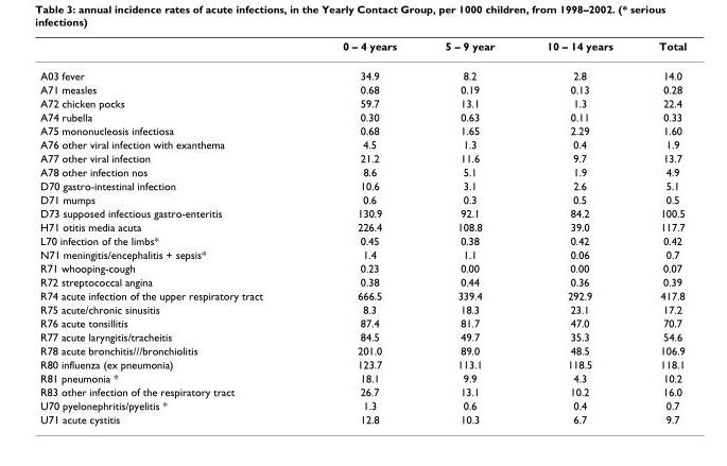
<table><thead><tr><td></td><td>0 – 4 years</td><td>5 – 9 year</td><td>10 – 14 years</td><td>Total</td></tr></thead><tbody><tr><td>A03 fever</td><td>34.9</td><td>8.2</td><td>2.8</td><td>14.0</td></tr><tr><td>A71 measles</td><td>0.68</td><td>0.19</td><td>0.13</td><td>0.28</td></tr><tr><td>A72 chicken pocks</td><td>59.7</td><td>13.1</td><td>1.3</td><td>22.4</td></tr><tr><td>A74 rubella</td><td>0.30</td><td>0.63</td><td>0.11</td><td>0.33</td></tr><tr><td>A75 mononucleosis infectiosa</td><td>0.68</td><td>1.65</td><td>2.29</td><td>1.60</td></tr><tr><td>A76 other viral infection with exanthema</td><td>4.5</td><td>1.3</td><td>0.4</td><td>1.9</td></tr><tr><td>A77 other viral infection</td><td>21.2</td><td>11.6</td><td>9.7</td><td>13.7</td></tr><tr><td>A78 other infection nos</td><td>8.6</td><td>5.1</td><td>1.9</td><td>4.9</td></tr><tr><td>D70 gastro-intestinal infection</td><td>10.6</td><td>3.1</td><td>2.6</td><td>5.1</td></tr><tr><td>D71 mumps</td><td>0.6</td><td>0.3</td><td>0.5</td><td>0.5</td></tr><tr><td>D73 supposed infectious gastro-enteritis</td><td>130.9</td><td>92.1</td><td>84.2</td><td>100.5</td></tr><tr><td>H71 otitis media acuta</td><td>226.4</td><td>108.8</td><td>39.0</td><td>117.7</td></tr><tr><td>L70 infection of the limbs*</td><td>0.45</td><td>0.38</td><td>0.42</td><td>0.42</td></tr><tr><td>N71 meningitis/encephalitis + sepsis*</td><td>1.4</td><td>1.1</td><td>0.06</td><td>0.7</td></tr><tr><td>R71 whooping-cough</td><td>0.23</td><td>0.00</td><td>0.00</td><td>0.07</td></tr><tr><td>R72 streptococcal angina</td><td>0.38</td><td>0.44</td><td>0.36</td><td>0.39</td></tr><tr><td>R74 acute infection of the upper respiratory tract</td><td>666.5</td><td>339.4</td><td>292.9</td><td>417.8</td></tr><tr><td>R75 acute/chronic sinusitis</td><td>8.3</td><td>18.3</td><td>23.1</td><td>17.2</td></tr><tr><td>R76 acute tonsillitis</td><td>87.4</td><td>81.7</td><td>47.0</td><td>70.7</td></tr><tr><td>R77 acute laryngitis/tracheitis</td><td>84.5</td><td>49.7</td><td>35.3</td><td>54.6</td></tr><tr><td>R78 acute bronchitis///bronchiolitis</td><td>201.0</td><td>89.0</td><td>48.5</td><td>106.9</td></tr><tr><td>R80 influenza (ex pneumonia)</td><td>123.7</td><td>113.1</td><td>118.5</td><td>118.1</td></tr><tr><td>R81 pneumonia *</td><td>18.1</td><td>9.9</td><td>4.3</td><td>10.2</td></tr><tr><td>R83 other infection of the respiratory tract</td><td>26.7</td><td>13.1</td><td>10.2</td><td>16.0</td></tr><tr><td>U70 pyelonephritis/pyelitis *</td><td>1.3</td><td>0.6</td><td>0.4</td><td>0.7</td></tr><tr><td>U71 acute cystitis</td><td>12.8</td><td>10.3</td><td>6.7</td><td>9.7</td></tr></tbody></table>